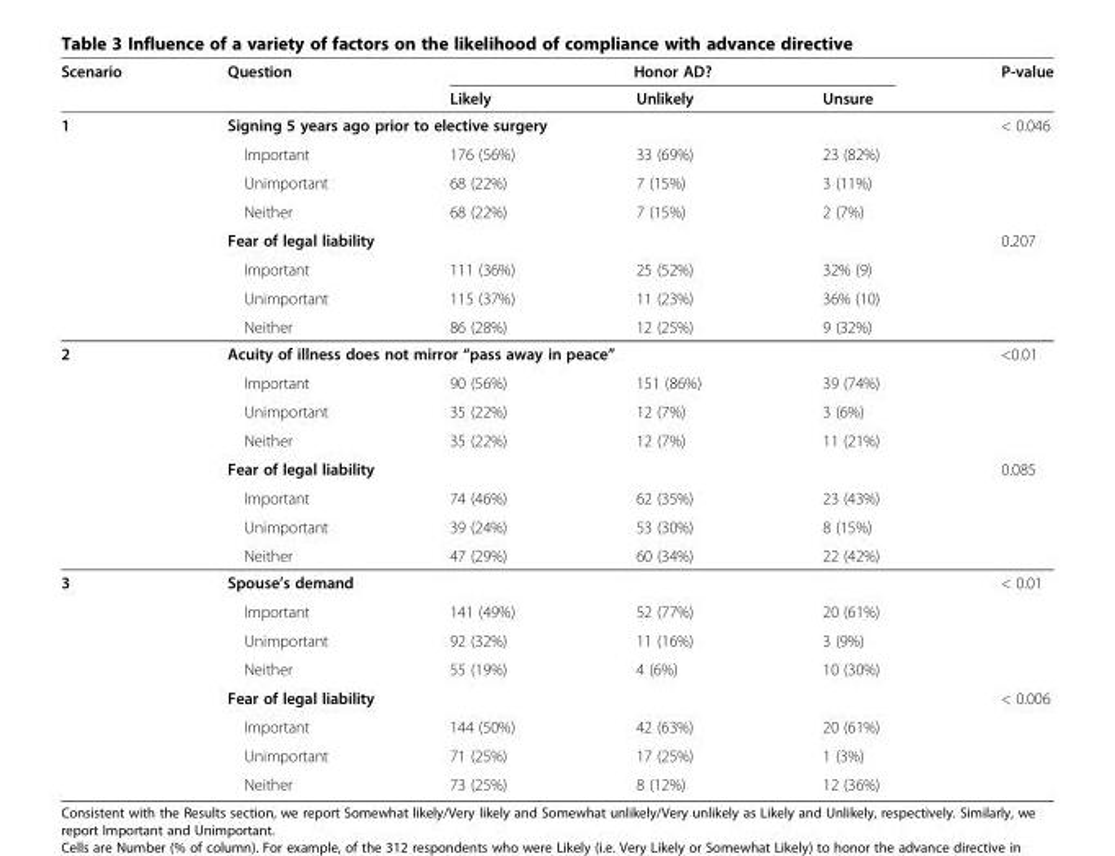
<table><thead><tr><td rowspan="2">Scenario</td><td rowspan="2">Question</td><td colspan="3">Honor AD?</td><td rowspan="2">P-value</td></tr><tr><td>Likely</td><td>Unlikely</td><td>Unsure</td></tr></thead><tbody><tr><td rowspan="8">1</td><td colspan="4">Signing 5 years ago prior to elective surgery</td><td>&lt; 0.046</td></tr><tr><td>Important</td><td>176 (56%)</td><td>33 (69%)</td><td>23 (82%)</td><td></td></tr><tr><td>Unimportant</td><td>68 (22%)</td><td>7 (15%)</td><td>3 (11%)</td><td></td></tr><tr><td>Neither</td><td>68 (22%)</td><td>7 (15%)</td><td>2 (7%)</td><td></td></tr><tr><td colspan="4">Fear of legal liability</td><td>0.207</td></tr><tr><td>Important</td><td>111 (36%)</td><td>25 (52%)</td><td>32% (9)</td><td></td></tr><tr><td>Unimportant</td><td>115 (37%)</td><td>11 (23%)</td><td>36% (10)</td><td></td></tr><tr><td>Neither</td><td>86 (28%)</td><td>12 (25%)</td><td>9 (32%)</td><td></td></tr><tr><td rowspan="8">2</td><td colspan="4">Acuity of illness does not mirror “pass away in peace”</td><td>&lt;0.01</td></tr><tr><td>Important</td><td>90 (56%)</td><td>151 (86%)</td><td>39 (74%)</td><td></td></tr><tr><td>Unimportant</td><td>35 (22%)</td><td>12 (7%)</td><td>3 (6%)</td><td></td></tr><tr><td>Neither</td><td>35 (22%)</td><td>12 (7%)</td><td>11 (21%)</td><td></td></tr><tr><td colspan="4">Fear of legal liability</td><td>0.085</td></tr><tr><td>Important</td><td>74 (46%)</td><td>62 (35%)</td><td>23 (43%)</td><td></td></tr><tr><td>Unimportant</td><td>39 (24%)</td><td>53 (30%)</td><td>8 (15%)</td><td></td></tr><tr><td>Neither</td><td>47 (29%)</td><td>60 (34%)</td><td>22 (42%)</td><td></td></tr><tr><td rowspan="8">3</td><td colspan="4">Spouse’s demand</td><td>&lt; 0.01</td></tr><tr><td>Important</td><td>141 (49%)</td><td>52 (77%)</td><td>20 (61%)</td><td></td></tr><tr><td>Unimportant</td><td>92 (32%)</td><td>11 (16%)</td><td>3 (9%)</td><td></td></tr><tr><td>Neither</td><td>55 (19%)</td><td>4 (6%)</td><td>10 (30%)</td><td></td></tr><tr><td colspan="4">Fear of legal liability</td><td>&lt; 0.006</td></tr><tr><td>Important</td><td>144 (50%)</td><td>42 (63%)</td><td>20 (61%)</td><td></td></tr><tr><td>Unimportant</td><td>71 (25%)</td><td>17 (25%)</td><td>1 (3%)</td><td></td></tr><tr><td>Neither</td><td>73 (25%)</td><td>8 (12%)</td><td>12 (36%)</td><td></td></tr></tbody></table>